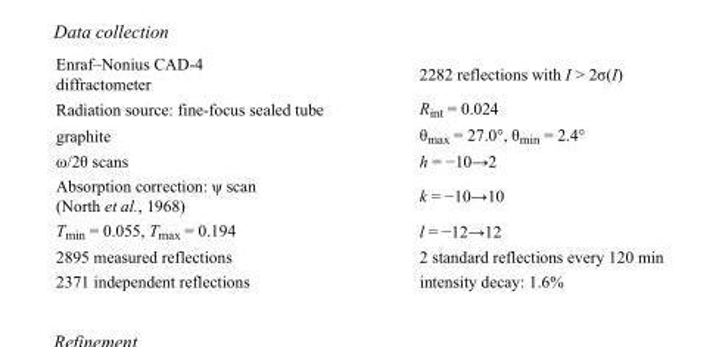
<table><tbody><tr><td>Enraf–Nonius CAD-4 diffractometer</td><td>2282 reflections with I &gt; 2σ(I)</td></tr><tr><td>Radiation source: fine-focus sealed tube</td><td>R<sub>int</sub> = 0.024</td></tr><tr><td>graphite</td><td>θ<sub>max</sub> = 27.0°, θ<sub>min</sub> = 2.4°</td></tr><tr><td>ω/2θ scans</td><td>h = −10→2</td></tr><tr><td>Absorption correction: ψ scan (North et al., 1968)</td><td>k = −10→10</td></tr><tr><td>T<sub>min</sub> = 0.055, T<sub>max</sub> = 0.194</td><td>l = −12→12</td></tr><tr><td>2895 measured reflections</td><td>2 standard reflections every 120 min</td></tr><tr><td>2371 independent reflections</td><td>intensity decay: 1.6%</td></tr></tbody></table>